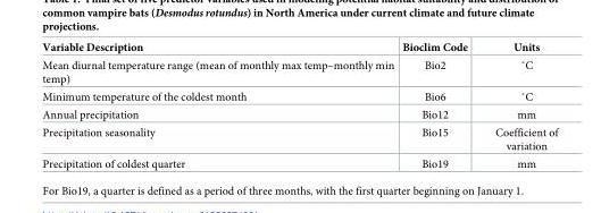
<table><thead><tr><td>Variable Description</td><td>Bioclim Code</td><td>Units</td></tr></thead><tbody><tr><td>Mean diurnal temperature range (mean of monthly max temp–monthly min temp)</td><td>Bio2</td><td>˚C</td></tr><tr><td>Minimum temperature of the coldest month</td><td>Bio6</td><td>˚C</td></tr><tr><td>Annual precipitation</td><td>Bio12</td><td>mm</td></tr><tr><td>Precipitation seasonality</td><td>Bio15</td><td>Coefficient of variation</td></tr><tr><td>Precipitation of coldest quarter</td><td>Bio19</td><td>mm</td></tr></tbody></table>